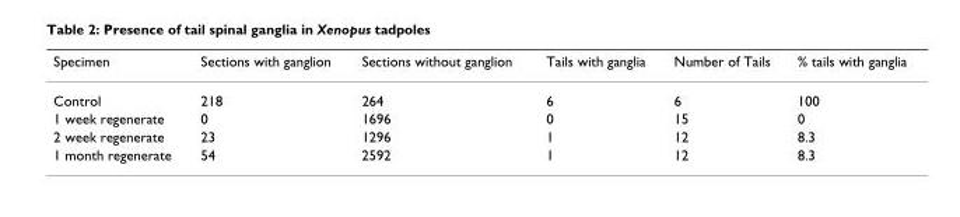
<table><thead><tr><td>Specimen</td><td>Sections with ganglion</td><td>Sections without ganglion</td><td>Tails with ganglia</td><td>Number of Tails</td><td>% tails with ganglia</td></tr></thead><tbody><tr><td>Control</td><td>218</td><td>264</td><td>6</td><td>6</td><td>100</td></tr><tr><td>1 week regenerate</td><td>0</td><td>1696</td><td>0</td><td>15</td><td>0</td></tr><tr><td>2 week regenerate</td><td>23</td><td>1296</td><td>1</td><td>12</td><td>8.3</td></tr><tr><td>1 month regenerate</td><td>54</td><td>2592</td><td>1</td><td>12</td><td>8.3</td></tr></tbody></table>